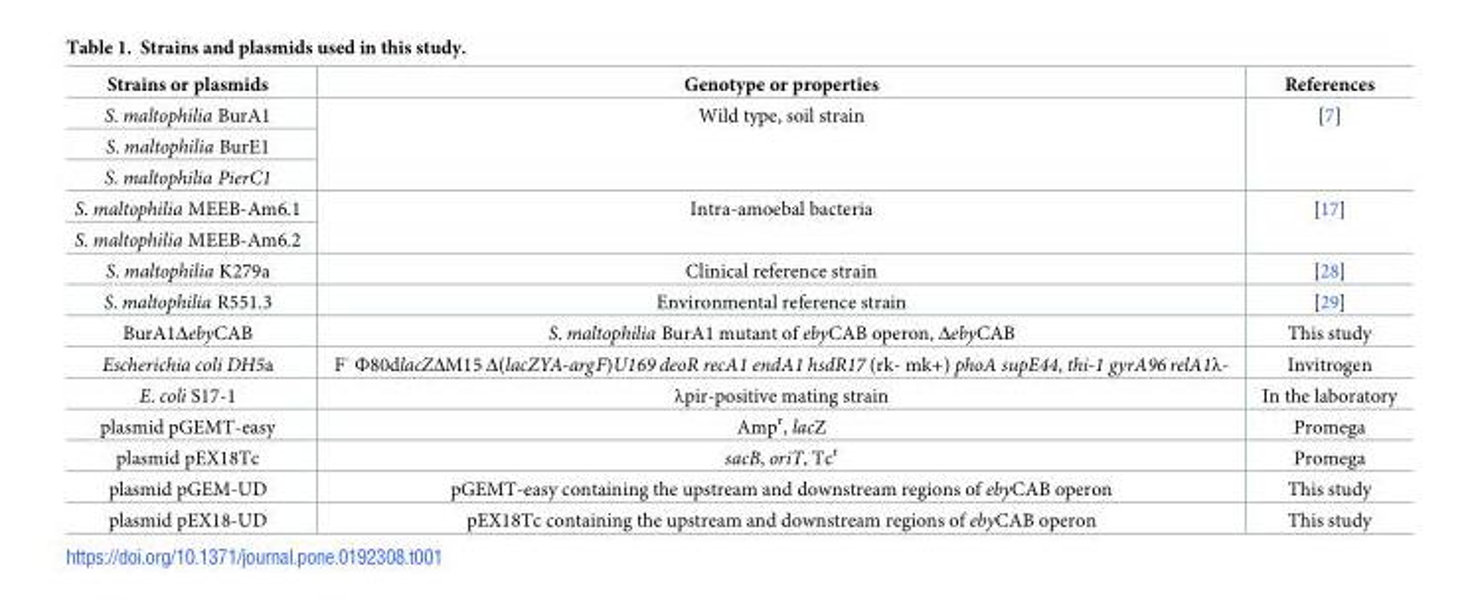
<table><thead><tr><td>Strains or plasmids</td><td>Genotype or properties</td><td>References</td></tr></thead><tbody><tr><td>S. maltophilia BurA1</td><td rowspan="3">Wild type, soil strain</td><td rowspan="3">[7]</td></tr><tr><td>S. maltophilia BurE1</td></tr><tr><td>S. maltophilia PierC1</td></tr><tr><td>S. maltophilia MEEB-Am6.1</td><td rowspan="2">Intra-amoebal bacteria</td><td rowspan="2">[17]</td></tr><tr><td>S. maltophilia MEEB-Am6.2</td></tr><tr><td>S. maltophilia K279a</td><td>Clinical reference strain</td><td>[28]</td></tr><tr><td>S. maltophilia R551.3</td><td>Environmental reference strain</td><td>[29]</td></tr><tr><td>BurA1ΔebyCAB</td><td>S. maltophilia BurA1 mutant of ebyCAB operon, ΔebyCAB</td><td>This study</td></tr><tr><td>Escherichia coli DH5a</td><td>F<sup>-</sup> Ф80dlacZΔM15 Δ(lacZYA-argF)U169 deoR recA1 endA1 hsdR17 (rk- mk+) phoA supE44, thi-1 gyrA96 relA1λ-</td><td>Invitrogen</td></tr><tr><td>E. coli S17-1</td><td>λpir-positive mating strain</td><td>In the laboratory</td></tr><tr><td>plasmid pGEMT-easy</td><td>Amp<sup>r</sup>, lacZ</td><td>Promega</td></tr><tr><td>plasmid pEX18Tc</td><td>sacB, oriT, Tc<sup>r</sup></td><td>Promega</td></tr><tr><td>plasmid pGEM-UD</td><td>pGEMT-easy containing the upstream and downstream regions of ebyCAB operon</td><td>This study</td></tr><tr><td>plasmid pEX18-UD</td><td>pEX18Tc containing the upstream and downstream regions of ebyCAB operon</td><td>This study</td></tr></tbody></table>